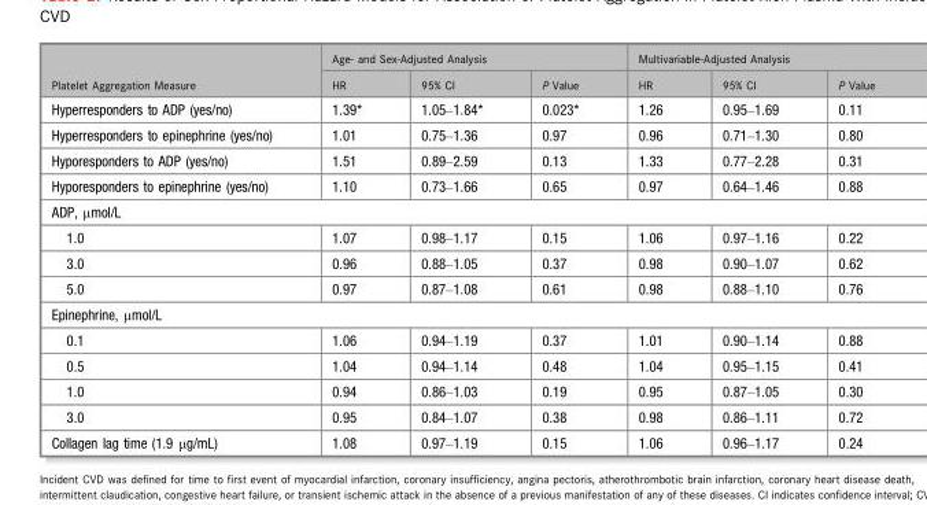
<table><thead><tr><td rowspan="2">Platelet Aggregation Measure</td><td colspan="3">Age- and Sex-Adjusted Analysis</td><td colspan="3">Multivariable-Adjusted Analysis</td></tr><tr><td>HR</td><td>95% CI</td><td>P Value</td><td>HR</td><td>95% CI</td><td>P Value</td></tr></thead><tbody><tr><td>Hyperresponders to ADP (yes/no)</td><td>1.39*</td><td>1.05–1.84*</td><td>0.023*</td><td>1.26</td><td>0.95–1.69</td><td>0.11</td></tr><tr><td>Hyperresponders to epinephrine (yes/no)</td><td>1.01</td><td>0.75–1.36</td><td>0.97</td><td>0.96</td><td>0.71–1.30</td><td>0.80</td></tr><tr><td>Hyporesponders to ADP (yes/no)</td><td>1.51</td><td>0.89–2.59</td><td>0.13</td><td>1.33</td><td>0.77–2.28</td><td>0.31</td></tr><tr><td>Hyporesponders to epinephrine (yes/no)</td><td>1.10</td><td>0.73–1.66</td><td>0.65</td><td>0.97</td><td>0.64–1.46</td><td>0.88</td></tr><tr><td colspan="7">ADP, μmol/L</td></tr><tr><td>1.0</td><td>1.07</td><td>0.98–1.17</td><td>0.15</td><td>1.06</td><td>0.97–1.16</td><td>0.22</td></tr><tr><td>3.0</td><td>0.96</td><td>0.88–1.05</td><td>0.37</td><td>0.98</td><td>0.90–1.07</td><td>0.62</td></tr><tr><td>5.0</td><td>0.97</td><td>0.87–1.08</td><td>0.61</td><td>0.98</td><td>0.88–1.10</td><td>0.76</td></tr><tr><td colspan="7">Epinephrine, μmol/L</td></tr><tr><td>0.1</td><td>1.06</td><td>0.94–1.19</td><td>0.37</td><td>1.01</td><td>0.90–1.14</td><td>0.88</td></tr><tr><td>0.5</td><td>1.04</td><td>0.94–1.14</td><td>0.48</td><td>1.04</td><td>0.95–1.15</td><td>0.41</td></tr><tr><td>1.0</td><td>0.94</td><td>0.86–1.03</td><td>0.19</td><td>0.95</td><td>0.87–1.05</td><td>0.30</td></tr><tr><td>3.0</td><td>0.95</td><td>0.84–1.07</td><td>0.38</td><td>0.98</td><td>0.86–1.11</td><td>0.72</td></tr><tr><td>Collagen lag time (1.9 μg/mL)</td><td>1.08</td><td>0.97–1.19</td><td>0.15</td><td>1.06</td><td>0.96–1.17</td><td>0.24</td></tr></tbody></table>